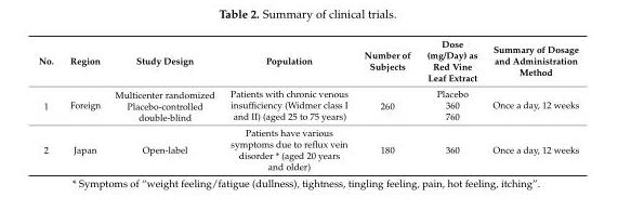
<table><thead><tr><td>No.</td><td>Region</td><td>Study Design</td><td>Population</td><td>Number of Subjects</td><td>Dose (mg/Day) as Red Vine Leaf Extract</td><td>Summary of Dosage and Administration Method</td></tr></thead><tbody><tr><td rowspan="3">1</td><td rowspan="3">Foreign</td><td rowspan="3">Multicenter randomized Placebo-controlled double-blind</td><td rowspan="3">Patients with chronic venous insufficiency (Widmer class I and II) (aged 25 to 75 years)</td><td rowspan="3">260</td><td>Placebo</td><td rowspan="3">Once a day, 12 weeks</td></tr><tr><td>360</td></tr><tr><td>760</td></tr><tr><td>2</td><td>Japan</td><td>Open-label</td><td>Patients have various symptoms due to reflux vein disorder * (aged 20 years and older)</td><td>180</td><td>360</td><td>Once a day, 12 weeks</td></tr></tbody></table>